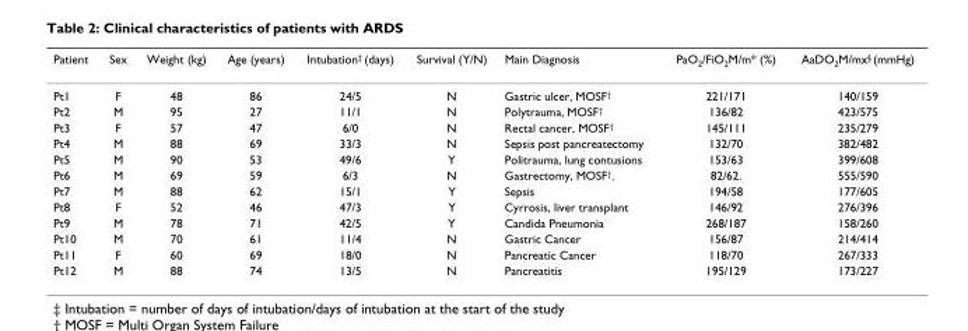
<table><thead><tr><td>Patient</td><td>Sex</td><td>Weight (kg)</td><td>Age (years)</td><td>Intubation<sup>‡</sup> (days)</td><td>Survival (Y/N)</td><td>Main Diagnosis</td><td>PaO<sub>2</sub>/FiO<sub>2</sub>M/m* (%)</td><td>AaDO<sub>2</sub>M/mx<sup>§</sup> (mmHg)</td></tr></thead><tbody><tr><td>Pt1</td><td>F</td><td>48</td><td>86</td><td>24/5</td><td>N</td><td>Gastric ulcer, MOSF<sup>†</sup></td><td>221/171</td><td>140/159</td></tr><tr><td>Pt2</td><td>M</td><td>95</td><td>27</td><td>11/1</td><td>N</td><td>Polytrauma, MOSF<sup>†</sup></td><td>136/82</td><td>423/575</td></tr><tr><td>Pt3</td><td>F</td><td>57</td><td>47</td><td>6/0</td><td>N</td><td>Rectal cancer, MOSF<sup>†</sup></td><td>145/111</td><td>235/279</td></tr><tr><td>Pt4</td><td>M</td><td>88</td><td>69</td><td>33/3</td><td>N</td><td>Sepsis post pancreatectomy</td><td>132/70</td><td>382/482</td></tr><tr><td>Pt5</td><td>M</td><td>90</td><td>53</td><td>49/6</td><td>Y</td><td>Politrauma, lung contusions</td><td>153/63</td><td>399/608</td></tr><tr><td>Pt6</td><td>M</td><td>69</td><td>59</td><td>6/3</td><td>N</td><td>Gastrectomy, MOSF<sup>†</sup>.</td><td>82/62.</td><td>555/590</td></tr><tr><td>Pt7</td><td>M</td><td>88</td><td>62</td><td>15/1</td><td>Y</td><td>Sepsis</td><td>194/58</td><td>177/605</td></tr><tr><td>Pt8</td><td>F</td><td>52</td><td>46</td><td>47/3</td><td>Y</td><td>Cyrrosis, liver transplant</td><td>146/92</td><td>276/396</td></tr><tr><td>Pt9</td><td>M</td><td>78</td><td>71</td><td>42/5</td><td>Y</td><td>Candida Pneumonia</td><td>268/187</td><td>158/260</td></tr><tr><td>Pt10</td><td>M</td><td>70</td><td>61</td><td>11/4</td><td>N</td><td>Gastric Cancer</td><td>156/87</td><td>214/414</td></tr><tr><td>Pt11</td><td>F</td><td>60</td><td>69</td><td>18/0</td><td>N</td><td>Pancreatic Cancer</td><td>118/70</td><td>267/333</td></tr><tr><td>Pt12</td><td>M</td><td>88</td><td>74</td><td>13/5</td><td>N</td><td>Pancreatitis</td><td>195/129</td><td>173/227</td></tr></tbody></table>